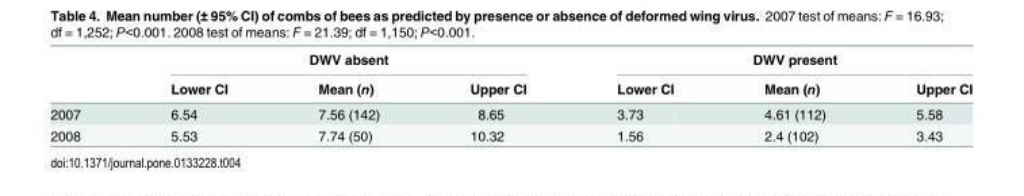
<table><thead><tr><td rowspan="2"></td><td colspan="3">DWV absent</td><td colspan="3">DWV present</td></tr><tr><td>Lower CI</td><td>Mean (n)</td><td>Upper CI</td><td>Lower CI</td><td>Mean (n)</td><td>Upper CI</td></tr></thead><tbody><tr><td>2007</td><td>6.54</td><td>7.56 (142)</td><td>8.65</td><td>3.73</td><td>4.61 (112)</td><td>5.58</td></tr><tr><td>2008</td><td>5.53</td><td>7.74 (50)</td><td>10.32</td><td>1.56</td><td>2.4 (102)</td><td>3.43</td></tr></tbody></table>